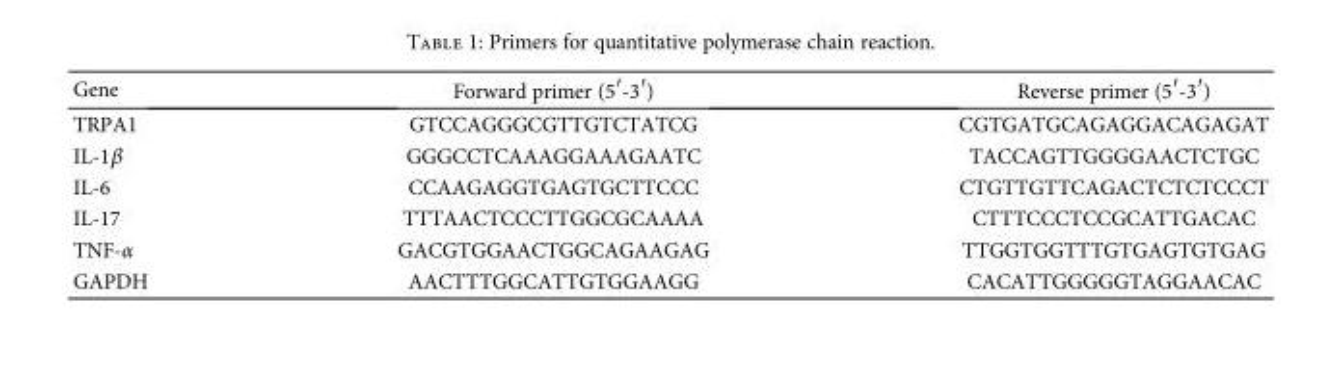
<table><thead><tr><td>Gene</td><td>Forward primer (5′-3′)</td><td>Reverse primer (5′-3′)</td></tr></thead><tbody><tr><td>TRPA1</td><td>GTCCAGGGCGTTGTCTATCG</td><td>CGTGATGCAGAGGACAGAGAT</td></tr><tr><td>IL-1β</td><td>GGGCCTCAAAGGAAAGAATC</td><td>TACCAGTTGGGGAACTCTGC</td></tr><tr><td>IL-6</td><td>CCAAGAGGTGAGTGCTTCCC</td><td>CTGTTGTTCAGACTCTCTCCCT</td></tr><tr><td>IL-17</td><td>TTTAACTCCCTTGGCGCAAAA</td><td>CTTTCCCTCCGCATTGACAC</td></tr><tr><td>TNF-α</td><td>GACGTGGAACTGGCAGAAGAG</td><td>TTGGTGGTTTGTGAGTGTGAG</td></tr><tr><td>GAPDH</td><td>AACTTTGGCATTGTGGAAGG</td><td>CACATTGGGGGTAGGAACAC</td></tr></tbody></table>